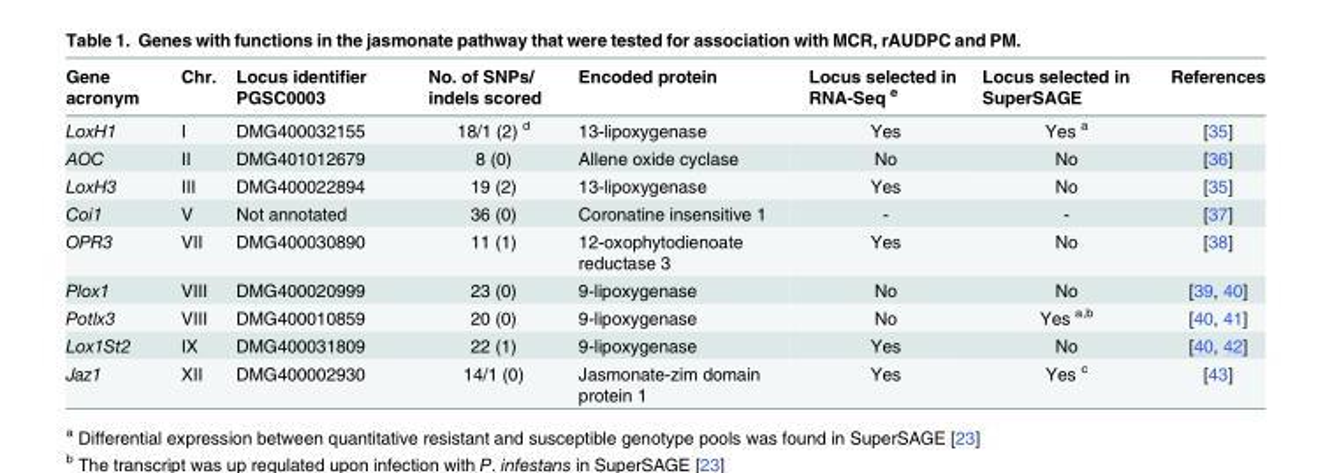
<table><thead><tr><td>Gene acronym</td><td>Chr.</td><td>Locus identifier PGSC0003</td><td>No. of SNPs/ indels scored</td><td>Encoded protein</td><td>Locus selected in RNA-Seq <sup>e</sup></td><td>Locus selected in SuperSAGE</td><td>References</td></tr></thead><tbody><tr><td>LoxH1</td><td>I</td><td>DMG400032155</td><td>18/1 (2) <sup>d</sup></td><td>13-lipoxygenase</td><td>Yes</td><td>Yes <sup>a</sup></td><td>[35]</td></tr><tr><td>AOC</td><td>II</td><td>DMG401012679</td><td>8 (0)</td><td>Allene oxide cyclase</td><td>No</td><td>No</td><td>[36]</td></tr><tr><td>LoxH3</td><td>III</td><td>DMG400022894</td><td>19 (2)</td><td>13-lipoxygenase</td><td>Yes</td><td>No</td><td>[35]</td></tr><tr><td>Coi1</td><td>V</td><td>Not annotated</td><td>36 (0)</td><td>Coronatine insensitive 1</td><td>-</td><td>-</td><td>[37]</td></tr><tr><td>OPR3</td><td>VII</td><td>DMG400030890</td><td>11 (1)</td><td>12-oxophytodienoate reductase 3</td><td>Yes</td><td>No</td><td>[38]</td></tr><tr><td>Plox1</td><td>VIII</td><td>DMG400020999</td><td>23 (0)</td><td>9-lipoxygenase</td><td>No</td><td>No</td><td>[39, 40]</td></tr><tr><td>Potlx3</td><td>VIII</td><td>DMG400010859</td><td>20 (0)</td><td>9-lipoxygenase</td><td>No</td><td>Yes <sup>a,b</sup></td><td>[40, 41]</td></tr><tr><td>Lox1St2</td><td>IX</td><td>DMG400031809</td><td>22 (1)</td><td>9-lipoxygenase</td><td>Yes</td><td>No</td><td>[40, 42]</td></tr><tr><td>Jaz1</td><td>XII</td><td>DMG400002930</td><td>14/1 (0)</td><td>Jasmonate-zim domain protein 1</td><td>Yes</td><td>Yes <sup>c</sup></td><td>[43]</td></tr></tbody></table>